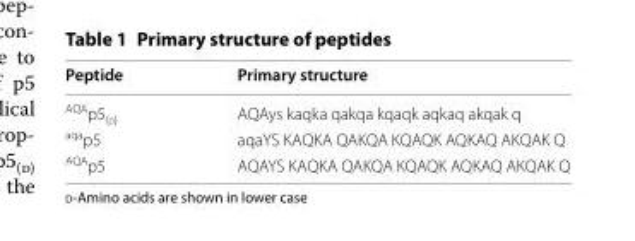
<table><thead><tr><td>Peptide</td><td>Primary structure</td></tr></thead><tbody><tr><td><sup>AQA</sup>p5<sub>(d)</sub></td><td>AQAys kaqka qakqa kqaqk aqkaq akqak q</td></tr><tr><td><sup>aqa</sup>p5</td><td>aqaYS KAQKA QAKQA KQAQK AQKAQ AKQAK Q</td></tr><tr><td><sup>AQA</sup>p5</td><td>AQAYS KAQKA QAKQA KQAQK AQKAQ AKQAK Q</td></tr></tbody></table>